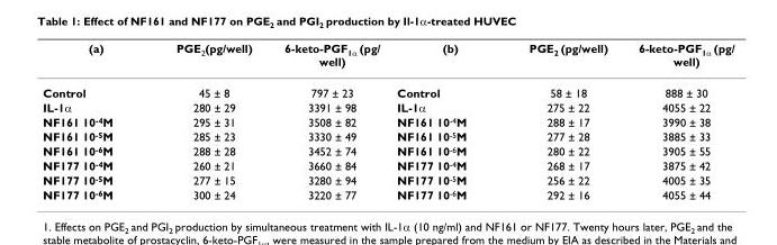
<table><thead><tr><td>(a)</td><td>PGE<sub>2</sub>(pg/well)</td><td>6-keto-PGF<sub>1α</sub> (pg/ well)</td><td>(b)</td><td>PGE<sub>2</sub> (pg/well)</td><td>6-keto-PGF<sub>1α</sub> (pg/ well)</td></tr></thead><tbody><tr><td>Control</td><td>45 ± 8</td><td>797 ± 23</td><td>Control</td><td>58 ± 18</td><td>888 ± 30</td></tr><tr><td>IL-1α</td><td>280 ± 29</td><td>3391 ± 98</td><td>IL-1α</td><td>275 ± 22</td><td>4055 ± 22</td></tr><tr><td>NF161 10<sup>-4</sup>M</td><td>295 ± 31</td><td>3508 ± 82</td><td>NF161 10<sup>-4</sup>M</td><td>288 ± 17</td><td>3990 ± 38</td></tr><tr><td>NF161 10<sup>-5</sup>M</td><td>285 ± 23</td><td>3330 ± 49</td><td>NF161 10<sup>-5</sup>M</td><td>277 ± 28</td><td>3885 ± 33</td></tr><tr><td>NF161 10<sup>-6</sup>M</td><td>288 ± 28</td><td>3452 ± 74</td><td>NF161 10<sup>-6</sup>M</td><td>280 ± 22</td><td>3905 ± 55</td></tr><tr><td>NF177 10<sup>-4</sup>M</td><td>260 ± 21</td><td>3660 ± 84</td><td>NF177 10<sup>-4</sup>M</td><td>268 ± 17</td><td>3875 ± 42</td></tr><tr><td>NF177 10<sup>-5</sup>M</td><td>277 ± 15</td><td>3280 ± 94</td><td>NF177 10<sup>-5</sup>M</td><td>256 ± 22</td><td>4005 ± 35</td></tr><tr><td>NF177 10<sup>-6</sup>M</td><td>300 ± 24</td><td>3220 ± 77</td><td>NF177 10<sup>-6</sup>M</td><td>292 ± 16</td><td>4055 ± 44</td></tr></tbody></table>